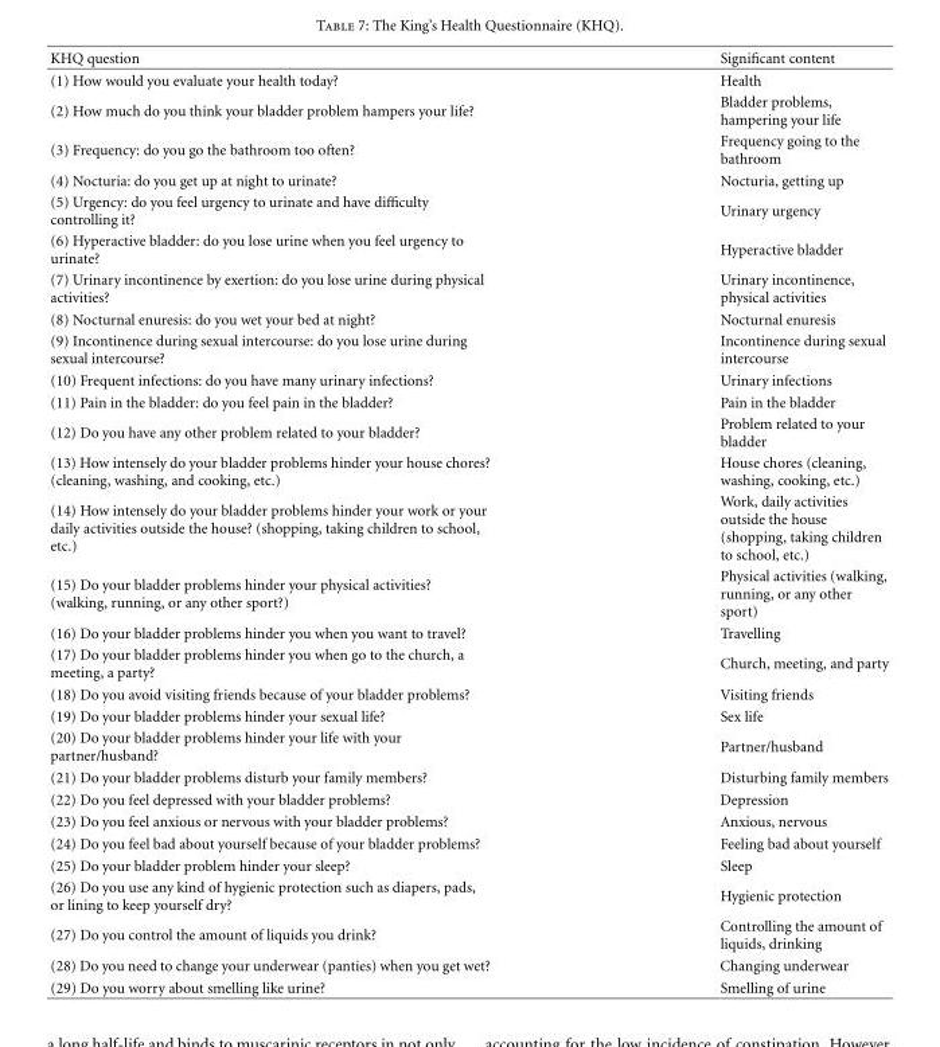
<table><thead><tr><td>KHQ question</td><td>Significant content</td></tr></thead><tbody><tr><td>(1) How would you evaluate your health today?</td><td>Health</td></tr><tr><td>(2) How much do you think your bladder problem hampers your life?</td><td>Bladder problems, hampering your life</td></tr><tr><td>(3) Frequency: do you go the bathroom too often?</td><td>Frequency going to the bathroom</td></tr><tr><td>(4) Nocturia: do you get up at night to urinate?</td><td>Nocturia, getting up</td></tr><tr><td>(5) Urgency: do you feel urgency to urinate and have difficulty controlling it?</td><td>Urinary urgency</td></tr><tr><td>(6) Hyperactive bladder: do you lose urine when you feel urgency to urinate?</td><td>Hyperactive bladder</td></tr><tr><td>(7) Urinary incontinence by exertion: do you lose urine during physical activities?</td><td>Urinary incontinence, physical activities</td></tr><tr><td>(8) Nocturnal enuresis: do you wet your bed at night?</td><td>Nocturnal enuresis</td></tr><tr><td>(9) Incontinence during sexual intercourse: do you lose urine during sexual intercourse?</td><td>Incontinence during sexual intercourse</td></tr><tr><td>(10) Frequent infections: do you have many urinary infections?</td><td>Urinary infections</td></tr><tr><td>(11) Pain in the bladder: do you feel pain in the bladder?</td><td>Pain in the bladder</td></tr><tr><td>(12) Do you have any other problem related to your bladder?</td><td>Problem related to your bladder</td></tr><tr><td>(13) How intensely do your bladder problems hinder your house chores? (cleaning, washing, and cooking, etc.)</td><td>House chores (cleaning, washing, cooking, etc.)</td></tr><tr><td>(14) How intensely do your bladder problems hinder your work or your daily activities outside the house? (shopping, taking children to school, etc.)</td><td>Work, daily activities outside the house (shopping, taking children to school, etc.)</td></tr><tr><td>(15) Do your bladder problems hinder your physical activities? (walking, running, or any other sport?)</td><td>Physical activities (walking, running, or any other sport)</td></tr><tr><td>(16) Do your bladder problems hinder you when you want to travel?</td><td>Travelling</td></tr><tr><td>(17) Do your bladder problems hinder you when go to the church, a meeting, a party?</td><td>Church, meeting, and party</td></tr><tr><td>(18) Do you avoid visiting friends because of your bladder problems?</td><td>Visiting friends</td></tr><tr><td>(19) Do your bladder problems hinder your sexual life?</td><td>Sex life</td></tr><tr><td>(20) Do your bladder problems hinder your life with your partner/husband?</td><td>Partner/husband</td></tr><tr><td>(21) Do your bladder problems disturb your family members?</td><td>Disturbing family members</td></tr><tr><td>(22) Do you feel depressed with your bladder problems?</td><td>Depression</td></tr><tr><td>(23) Do you feel anxious or nervous with your bladder problems?</td><td>Anxious, nervous</td></tr><tr><td>(24) Do you feel bad about yourself because of your bladder problems?</td><td>Feeling bad about yourself</td></tr><tr><td>(25) Do your bladder problem hinder your sleep?</td><td>Sleep</td></tr><tr><td>(26) Do you use any kind of hygienic protection such as diapers, pads, or lining to keep yourself dry?</td><td>Hygienic protection</td></tr><tr><td>(27) Do you control the amount of liquids you drink?</td><td>Controlling the amount of liquids, drinking</td></tr><tr><td>(28) Do you need to change your underwear (panties) when you get wet?</td><td>Changing underwear</td></tr><tr><td>(29) Do you worry about smelling like urine?</td><td>Smelling of urine</td></tr></tbody></table>